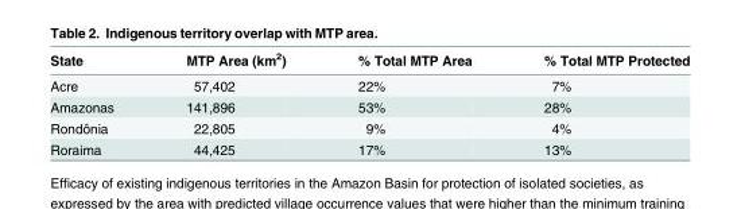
<table><thead><tr><td>State</td><td>MTP Area (km<sup>2</sup>)</td><td>% Total MTP Area</td><td>% Total MTP Protected</td></tr></thead><tbody><tr><td>Acre</td><td>57,402</td><td>22%</td><td>7%</td></tr><tr><td>Amazonas</td><td>141,896</td><td>53%</td><td>28%</td></tr><tr><td>Rondônia</td><td>22,805</td><td>9%</td><td>4%</td></tr><tr><td>Roraima</td><td>44,425</td><td>17%</td><td>13%</td></tr></tbody></table>